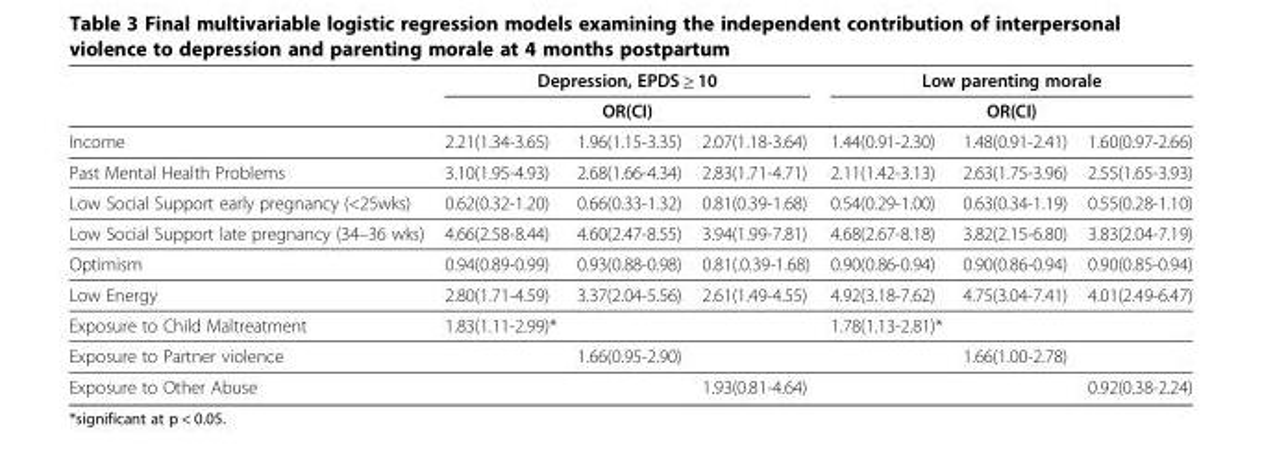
<table><thead><tr><td rowspan="3">Income</td><td rowspan="2" colspan="3">Depression, EPDS ≥ 10 OR(CI)</td><td rowspan="2" colspan="3">Low parenting morale OR(CI)</td></tr><tr></tr><tr><td>2.21(1.34-3.65)</td><td>1.96(1.15-3.35)</td><td>2.07(1.18-3.64)</td><td>1.44(0.91-2.30)</td><td>1.48(0.91-2.41)</td><td>1.60(0.97-2.66)</td></tr></thead><tbody><tr><td>Past Mental Health Problems</td><td>3.10(1.95-4.93)</td><td>2.68(1.66-4.34)</td><td>2.83(1.71-4.71)</td><td>2.11(1.42-3.13)</td><td>2.63(1.75-3.96)</td><td>2.55(1.65-3.93)</td></tr><tr><td>Low Social Support early pregnancy (&lt;25wks)</td><td>0.62(0.32-1.20)</td><td>0.66(0.33-1.32)</td><td>0.81(0.39-1.68)</td><td>0.54(0.29-1.00)</td><td>0.63(0.34-1.19)</td><td>0.55(0.28-1.10)</td></tr><tr><td>Low Social Support late pregnancy (34–36 wks)</td><td>4.66(2.58-8.44)</td><td>4.60(2.47-8.55)</td><td>3.94(1.99-7.81)</td><td>4.68(2.67-8.18)</td><td>3.82(2.15-6.80)</td><td>3.83(2.04-7.19)</td></tr><tr><td>Optimism</td><td>0.94(0.89-0.99)</td><td>0.93(0.88-0.98)</td><td>0.81(.0.39-1.68)</td><td>0.90(0.86-0.94)</td><td>0.90(0.86-0.94)</td><td>0.90(0.85-0.94)</td></tr><tr><td>Low Energy</td><td>2.80(1.71-4.59)</td><td>3.37(2.04-5.56)</td><td>2.61(1.49-4.55)</td><td>4.92(3.18-7.62)</td><td>4.75(3.04-7.41)</td><td>4.01(2.49-6.47)</td></tr><tr><td>Exposure to Child Maltreatment</td><td>1.83(1.11-2.99)*</td><td></td><td></td><td>1.78(1.13-2.81)*</td><td></td><td></td></tr><tr><td>Exposure to Partner violence</td><td></td><td>1.66(0.95-2.90)</td><td></td><td></td><td>1.66(1.00-2.78)</td><td></td></tr><tr><td>Exposure to Other Abuse</td><td></td><td></td><td>1.93(0.81-4.64)</td><td></td><td></td><td>0.92(0.38-2.24)</td></tr></tbody></table>